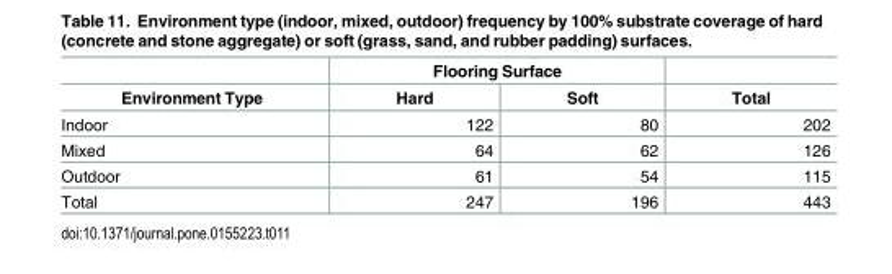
<table><thead><tr><td rowspan="2">Environment Type</td><td colspan="2">Flooring Surface</td><td rowspan="2">Total</td></tr><tr><td>Hard</td><td>Soft</td></tr></thead><tbody><tr><td>Indoor</td><td>122</td><td>80</td><td>202</td></tr><tr><td>Mixed</td><td>64</td><td>62</td><td>126</td></tr><tr><td>Outdoor</td><td>61</td><td>54</td><td>115</td></tr><tr><td>Total</td><td>247</td><td>196</td><td>443</td></tr></tbody></table>